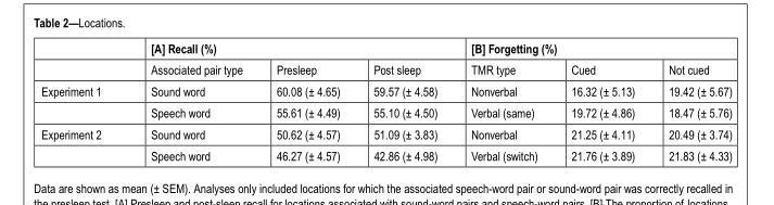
<table><thead><tr><td rowspan="2"></td><td colspan="3">[A] Recall (%)</td><td colspan="3">[B] Forgetting (%)</td></tr><tr><td>Associated pair type</td><td>Presleep</td><td>Post sleep</td><td>TMR type</td><td>Cued</td><td>Not cued</td></tr></thead><tbody><tr><td rowspan="2">Experiment 1</td><td>Sound word</td><td>60.08 (± 4.65)</td><td>59.57 (± 4.58)</td><td>Nonverbal</td><td>16.32 (± 5.13)</td><td>19.42 (± 5.67)</td></tr><tr><td>Speech word</td><td>55.61 (± 4.49)</td><td>55.10 (± 4.50)</td><td>Verbal (same)</td><td>19.72 (± 4.86)</td><td>18.47 (± 5.76)</td></tr><tr><td rowspan="2">Experiment 2</td><td>Sound word</td><td>50.62 (± 4.57)</td><td>51.09 (± 3.83)</td><td>Nonverbal</td><td>21.25 (± 4.11)</td><td>20.49 (± 3.74)</td></tr><tr><td>Speech word</td><td>46.27 (± 4.57)</td><td>42.86 (± 4.98)</td><td>Verbal (switch)</td><td>21.76 (± 3.89)</td><td>21.83 (± 4.33)</td></tr></tbody></table>